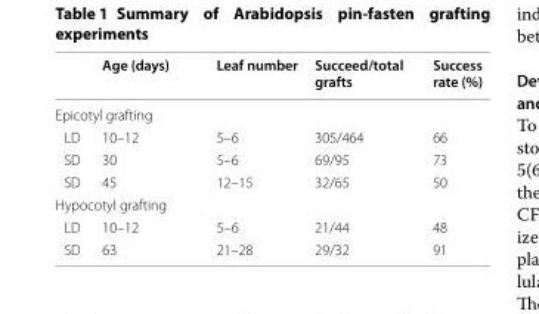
<table><thead><tr><td></td><td>Age (days)</td><td>Leaf number</td><td>Succeed/total grafts</td><td>Success rate (%)</td></tr></thead><tbody><tr><td colspan="5">Epicotyl grafting</td></tr><tr><td>LD</td><td>10–12</td><td>5–6</td><td>305/464</td><td>66</td></tr><tr><td>SD</td><td>30</td><td>5–6</td><td>69/95</td><td>73</td></tr><tr><td>SD</td><td>45</td><td>12–15</td><td>32/65</td><td>50</td></tr><tr><td colspan="5">Hypocotyl grafting</td></tr><tr><td>LD</td><td>10–12</td><td>5–6</td><td>21/44</td><td>48</td></tr><tr><td>SD</td><td>63</td><td>21–28</td><td>29/32</td><td>91</td></tr></tbody></table>